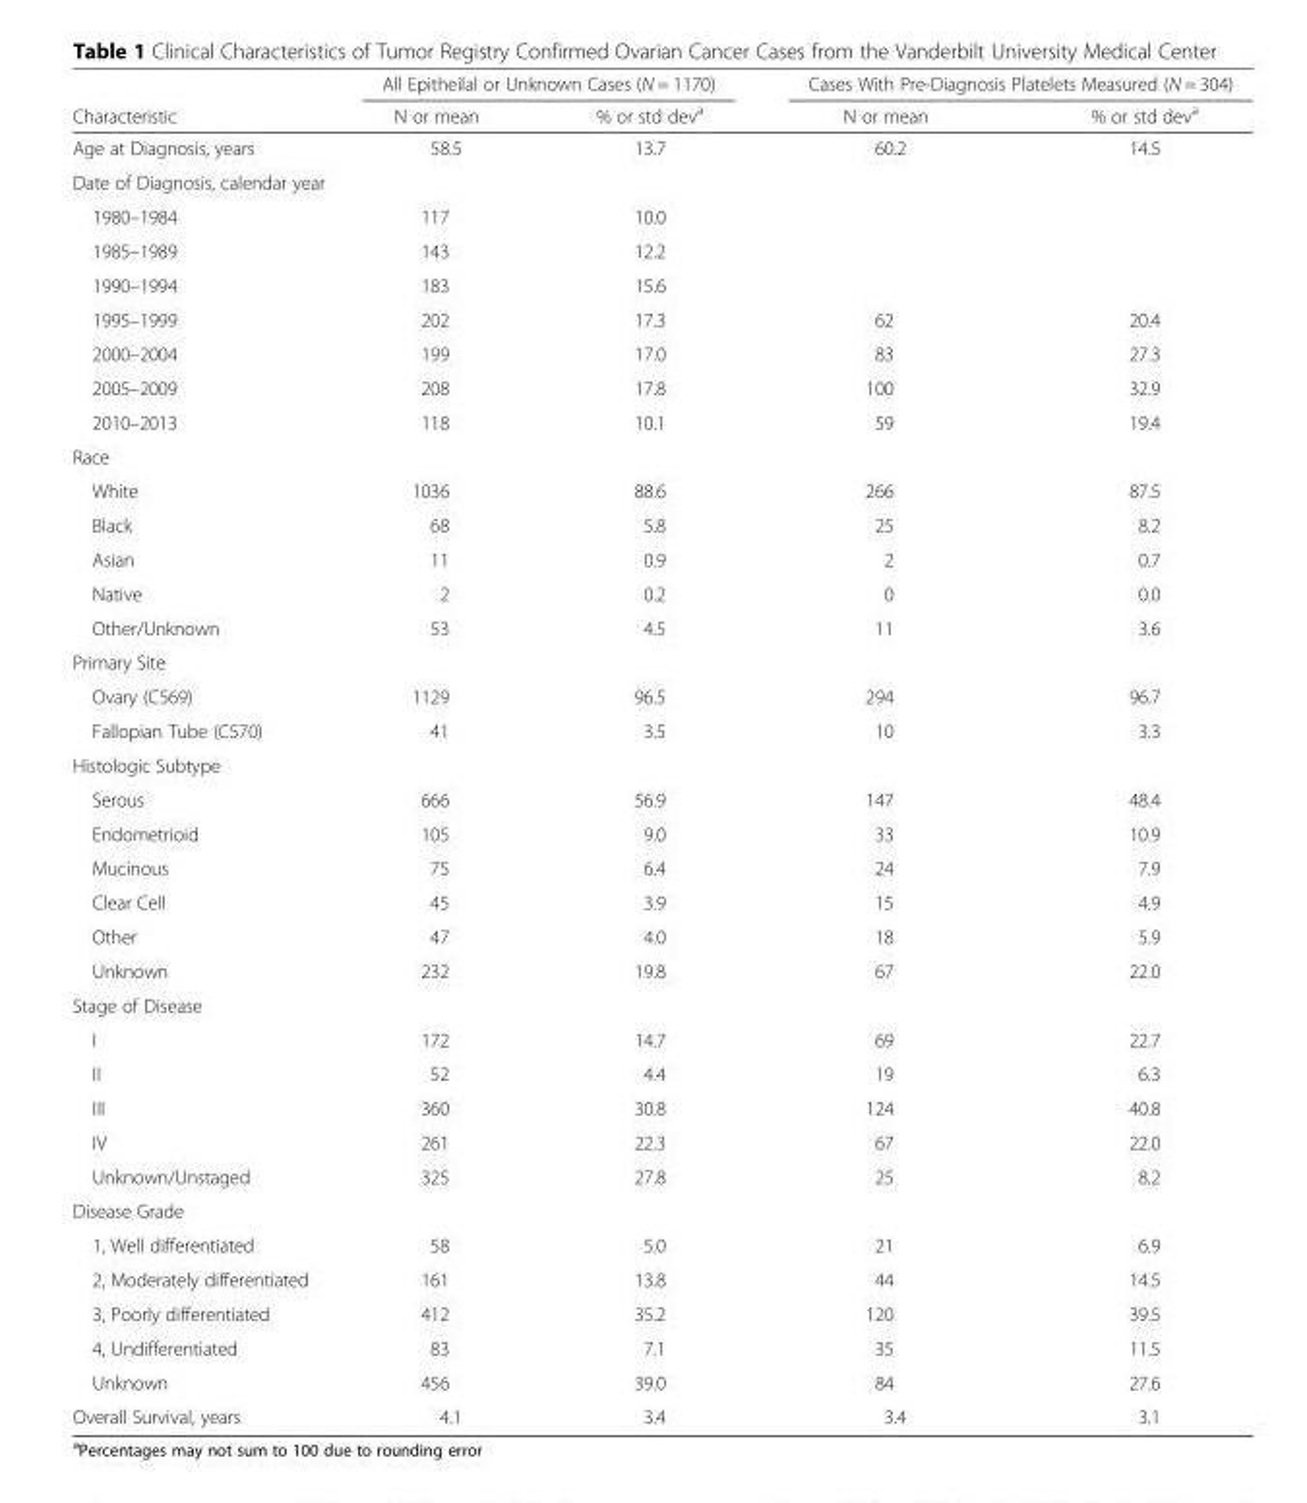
<table><thead><tr><td rowspan="2">Characteristic</td><td colspan="2">All Epitheilal or Unknown Cases (N = 1170)</td><td colspan="2">Cases With Pre-Diagnosis Platelets Measured (N = 304)</td></tr><tr><td>N or mean</td><td>% or std dev<sup>a</sup></td><td>N or mean</td><td>% or std dev<sup>a</sup></td></tr></thead><tbody><tr><td>Age at Diagnosis, years</td><td>58.5</td><td>13.7</td><td>60.2</td><td>14.5</td></tr><tr><td colspan="5">Date of Diagnosis, calendar year</td></tr><tr><td>1980–1984</td><td>117</td><td>10.0</td><td></td><td></td></tr><tr><td>1985–1989</td><td>143</td><td>12.2</td><td></td><td></td></tr><tr><td>1990–1994</td><td>183</td><td>15.6</td><td></td><td></td></tr><tr><td>1995–1999</td><td>202</td><td>17.3</td><td>62</td><td>20.4</td></tr><tr><td>2000–2004</td><td>199</td><td>17.0</td><td>83</td><td>27.3</td></tr><tr><td>2005–2009</td><td>208</td><td>17.8</td><td>100</td><td>32.9</td></tr><tr><td>2010–2013</td><td>118</td><td>10.1</td><td>59</td><td>19.4</td></tr><tr><td colspan="5">Race</td></tr><tr><td>White</td><td>1036</td><td>88.6</td><td>266</td><td>87.5</td></tr><tr><td>Black</td><td>68</td><td>5.8</td><td>25</td><td>8.2</td></tr><tr><td>Asian</td><td>11</td><td>0.9</td><td>2</td><td>0.7</td></tr><tr><td>Native</td><td>2</td><td>0.2</td><td>0</td><td>0.0</td></tr><tr><td>Other/Unknown</td><td>53</td><td>4.5</td><td>11</td><td>3.6</td></tr><tr><td colspan="5">Primary Site</td></tr><tr><td>Ovary (C569)</td><td>1129</td><td>96.5</td><td>294</td><td>96.7</td></tr><tr><td>Fallopian Tube (C570)</td><td>41</td><td>3.5</td><td>10</td><td>3.3</td></tr><tr><td colspan="5">Histologic Subtype</td></tr><tr><td>Serous</td><td>666</td><td>56.9</td><td>147</td><td>48.4</td></tr><tr><td>Endometrioid</td><td>105</td><td>9.0</td><td>33</td><td>10.9</td></tr><tr><td>Mucinous</td><td>75</td><td>6.4</td><td>24</td><td>7.9</td></tr><tr><td>Clear Cell</td><td>45</td><td>3.9</td><td>15</td><td>4.9</td></tr><tr><td>Other</td><td>47</td><td>4.0</td><td>18</td><td>5.9</td></tr><tr><td>Unknown</td><td>232</td><td>19.8</td><td>67</td><td>22.0</td></tr><tr><td colspan="5">Stage of Disease</td></tr><tr><td>I</td><td>172</td><td>14.7</td><td>69</td><td>22.7</td></tr><tr><td>II</td><td>52</td><td>4.4</td><td>19</td><td>6.3</td></tr><tr><td>III</td><td>360</td><td>30.8</td><td>124</td><td>40.8</td></tr><tr><td>IV</td><td>261</td><td>22.3</td><td>67</td><td>22.0</td></tr><tr><td>Unknown/Unstaged</td><td>325</td><td>27.8</td><td>25</td><td>8.2</td></tr><tr><td colspan="5">Disease Grade</td></tr><tr><td>1, Well differentiated</td><td>58</td><td>5.0</td><td>21</td><td>6.9</td></tr><tr><td>2, Moderately differentiated</td><td>161</td><td>13.8</td><td>44</td><td>14.5</td></tr><tr><td>3, Poorly differentiated</td><td>412</td><td>35.2</td><td>120</td><td>39.5</td></tr><tr><td>4, Undifferentiated</td><td>83</td><td>7.1</td><td>35</td><td>11.5</td></tr><tr><td>Unknown</td><td>456</td><td>39.0</td><td>84</td><td>27.6</td></tr><tr><td>Overall Survival, years</td><td>4.1</td><td>3.4</td><td>3.4</td><td>3.1</td></tr></tbody></table>